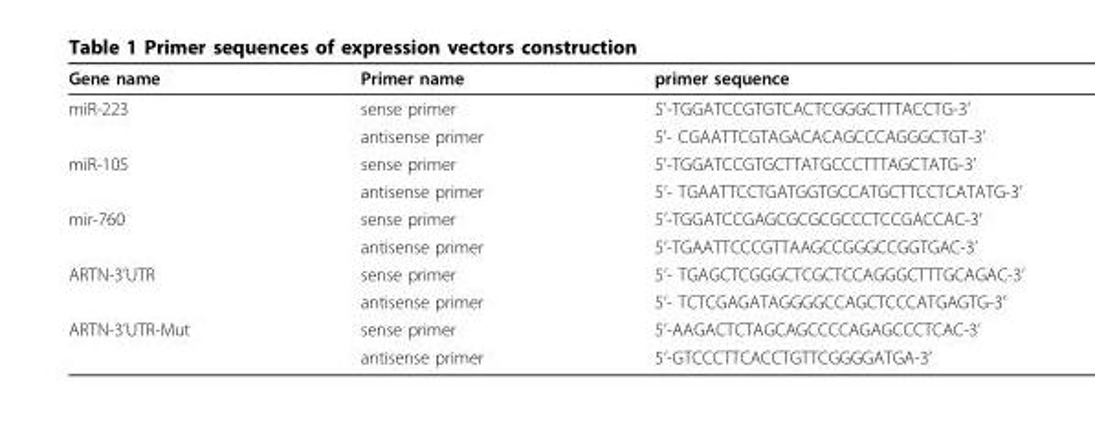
<table><thead><tr><td>Gene name</td><td>Primer name</td><td>primer sequence</td></tr></thead><tbody><tr><td rowspan="2">miR-223</td><td>sense primer</td><td>5’-TGGATCCGTGTCACTCGGGCTTTACCTG-3’</td></tr><tr><td>antisense primer</td><td>5’- CGAATTCGTAGACACAGCCCAGGGCTGT-3’</td></tr><tr><td rowspan="2">miR-105</td><td>sense primer</td><td>5’-TGGATCCGTGCTTATGCCCTTTAGCTATG-3’</td></tr><tr><td>antisense primer</td><td>5’- TGAATTCCTGATGGTGCCATGCTTCCTCATATG-3’</td></tr><tr><td rowspan="2">mir-760</td><td>sense primer</td><td>5’-TGGATCCGAGCGCGCGCCCTCCGACCAC-3’</td></tr><tr><td>antisense primer</td><td>5’-TGAATTCCCGTTAAGCCGGGCCGGTGAC-3’</td></tr><tr><td rowspan="2">ARTN-3’UTR</td><td>sense primer</td><td>5’- TGAGCTCGGGCTCGCTCCAGGGCTTTGCAGAC-3’</td></tr><tr><td>antisense primer</td><td>5’- TCTCGAGATAGGGGCCAGCTCCCATGAGTG-3’</td></tr><tr><td rowspan="2">ARTN-3’UTR-Mut</td><td>sense primer</td><td>5’-AAGACTCTAGCAGCCCCAGAGCCCTCAC-3’</td></tr><tr><td>antisense primer</td><td>5’-GTCCCTTCACCTGTTCGGGGATGA-3’</td></tr></tbody></table>